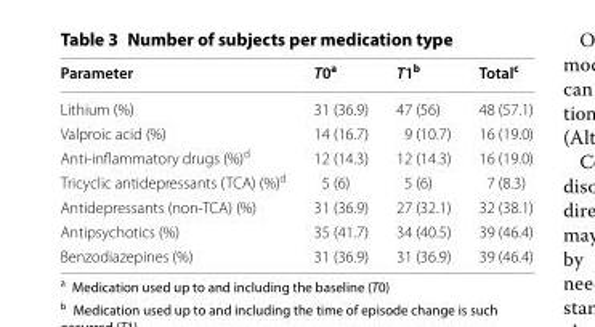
<table><thead><tr><td>Parameter</td><td>T0<sup>a</sup></td><td>T1<sup>b</sup></td><td>Total<sup>c</sup></td></tr></thead><tbody><tr><td>Lithium (%)</td><td>31 (36.9)</td><td>47 (56)</td><td>48 (57.1)</td></tr><tr><td>Valproic acid (%)</td><td>14 (16.7)</td><td>9 (10.7)</td><td>16 (19.0)</td></tr><tr><td>Anti‑inflammatory drugs (%)<sup>d</sup></td><td>12 (14.3)</td><td>12 (14.3)</td><td>16 (19.0)</td></tr><tr><td>Tricyclic antidepressants (TCA) (%)<sup>d</sup></td><td>5 (6)</td><td>5 (6)</td><td>7 (8.3)</td></tr><tr><td>Antidepressants (non‑TCA) (%)</td><td>31 (36.9)</td><td>27 (32.1)</td><td>32 (38.1)</td></tr><tr><td>Antipsychotics (%)</td><td>35 (41.7)</td><td>34 (40.5)</td><td>39 (46.4)</td></tr><tr><td>Benzodiazepines (%)</td><td>31 (36.9)</td><td>31 (36.9)</td><td>39 (46.4)</td></tr></tbody></table>